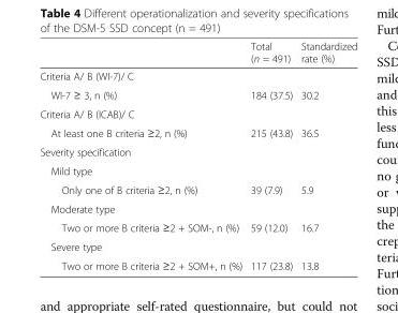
<table><thead><tr><td></td><td>Total (n = 491)</td><td>Standardized rate (%)</td></tr></thead><tbody><tr><td colspan="3">Criteria A/ B (WI-7)/ C</td></tr><tr><td>WI-7 ≥ 3, n (%)</td><td>184 (37.5)</td><td>30.2</td></tr><tr><td colspan="3">Criteria A/ B (ICAB)/ C</td></tr><tr><td>At least one B criteria ≥2, n (%)</td><td>215 (43.8)</td><td>36.5</td></tr><tr><td colspan="3">Severity specification</td></tr><tr><td colspan="3">Mild type</td></tr><tr><td>Only one of B criteria ≥2, n (%)</td><td>39 (7.9)</td><td>5.9</td></tr><tr><td colspan="3">Moderate type</td></tr><tr><td>Two or more B criteria ≥2 + SOM-, n (%)</td><td>59 (12.0)</td><td>16.7</td></tr><tr><td colspan="3">Severe type</td></tr><tr><td>Two or more B criteria ≥2 + SOM+, n (%)</td><td>117 (23.8)</td><td>13.8</td></tr></tbody></table>